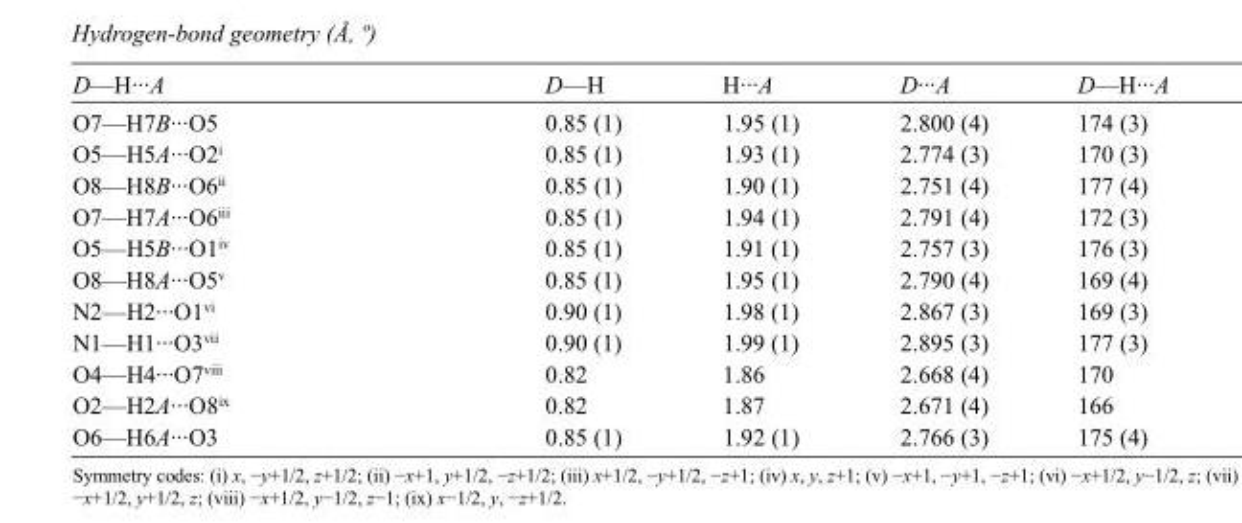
<table><tbody><tr><td>D—H···A</td><td>D—H</td><td>H···A</td><td>D···A</td><td>D—H···A</td></tr><tr><td>O7—H7B···O5</td><td>0.85 (1)</td><td>1.95 (1)</td><td>2.800 (4)</td><td>174 (3)</td></tr><tr><td>O5—H5A···O2<sup>i</sup></td><td>0.85 (1)</td><td>1.93 (1)</td><td>2.774 (3)</td><td>170 (3)</td></tr><tr><td>O8—H8B···O6<sup>ii</sup></td><td>0.85 (1)</td><td>1.90 (1)</td><td>2.751 (4)</td><td>177 (4)</td></tr><tr><td>O7—H7A···O6<sup>iii</sup></td><td>0.85 (1)</td><td>1.94 (1)</td><td>2.791 (4)</td><td>172 (3)</td></tr><tr><td>O5—H5B···O1<sup>iv</sup></td><td>0.85 (1)</td><td>1.91 (1)</td><td>2.757 (3)</td><td>176 (3)</td></tr><tr><td>O8—H8A···O5<sup>v</sup></td><td>0.85 (1)</td><td>1.95 (1)</td><td>2.790 (4)</td><td>169 (4)</td></tr><tr><td>N2—H2···O1<sup>vi</sup></td><td>0.90 (1)</td><td>1.98 (1)</td><td>2.867 (3)</td><td>169 (3)</td></tr><tr><td>N1—H1···O3<sup>vii</sup></td><td>0.90 (1)</td><td>1.99 (1)</td><td>2.895 (3)</td><td>177 (3)</td></tr><tr><td>O4—H4···O7<sup>viii</sup></td><td>0.82</td><td>1.86</td><td>2.668 (4)</td><td>170</td></tr><tr><td>O2—H2A···O8<sup>ix</sup></td><td>0.82</td><td>1.87</td><td>2.671 (4)</td><td>166</td></tr><tr><td>O6—H6A···O3</td><td>0.85 (1)</td><td>1.92 (1)</td><td>2.766 (3)</td><td>175 (4)</td></tr></tbody></table>